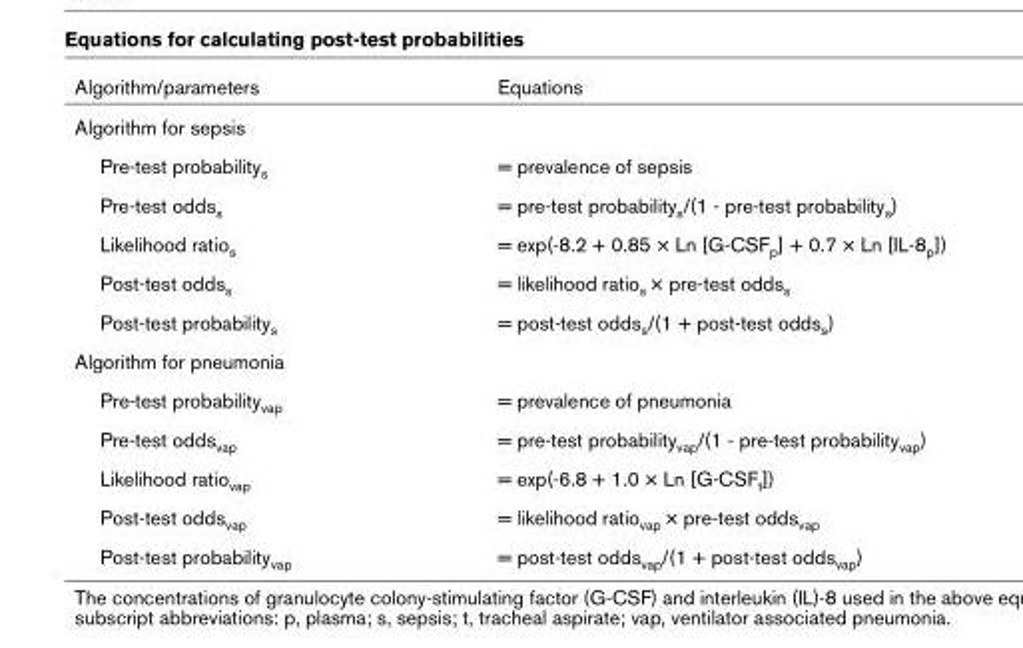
<table><thead><tr><td>Algorithm/parameters</td><td>Equations</td></tr></thead><tbody><tr><td colspan="2">Algorithm for sepsis</td></tr><tr><td>Pre-test probabilitys</td><td>= prevalence of sepsis</td></tr><tr><td>Pre-test oddss</td><td>= pre-test probabilitys/(1 - pre-test probabilitys)</td></tr><tr><td>Likelihood ratios</td><td>= exp(-8.2 + 0.85 × Ln [G-CSFp] + 0.7 × Ln [IL-8p])</td></tr><tr><td>Post-test oddss</td><td>= likelihood ratios × pre-test oddss</td></tr><tr><td>Post-test probabilitys</td><td>= post-test oddss/(1 + post-test oddss)</td></tr><tr><td colspan="2">Algorithm for pneumonia</td></tr><tr><td>Pre-test probabilityvap</td><td>= prevalence of pneumonia</td></tr><tr><td>Pre-test oddsvap</td><td>= pre-test probabilityvap/(1 - pre-test probabilityvap)</td></tr><tr><td>Likelihood ratiovap</td><td>= exp(-6.8 + 1.0 × Ln [G-CSFt])</td></tr><tr><td>Post-test oddsvap</td><td>= likelihood ratiovap × pre-test oddsvap</td></tr><tr><td>Post-test probabilityvap</td><td>= post-test oddsvap/(1 + post-test oddsvap)</td></tr></tbody></table>